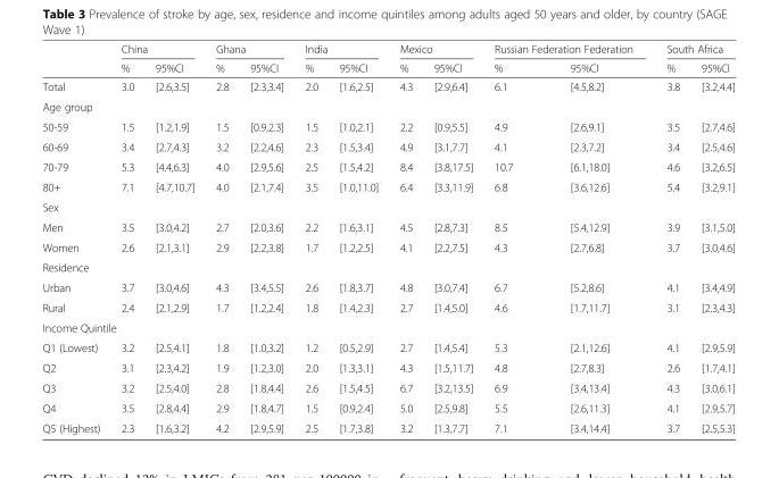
<table><thead><tr><td rowspan="2"></td><td colspan="2">China</td><td colspan="2">Ghana</td><td colspan="2">India</td><td colspan="2">Mexico</td><td colspan="2">Russian Federation Federation</td><td colspan="2">South Africa</td></tr><tr><td>%</td><td>95%CI</td><td>%</td><td>95%CI</td><td>%</td><td>95%CI</td><td>%</td><td>95%CI</td><td>%</td><td>95%CI</td><td>%</td><td>95%CI</td></tr></thead><tbody><tr><td>Total</td><td>3.0</td><td>[2.6,3.5]</td><td>2.8</td><td>[2.3,3.4]</td><td>2.0</td><td>[1.6,2.5]</td><td>4.3</td><td>[2.9,6.4]</td><td>6.1</td><td>[4.5,8.2]</td><td>3.8</td><td>[3.2,4.4]</td></tr><tr><td colspan="13">Age group</td></tr><tr><td>50-59</td><td>1.5</td><td>[1.2,1.9]</td><td>1.5</td><td>[0.9,2.3]</td><td>1.5</td><td>[1.0,2.1]</td><td>2.2</td><td>[0.9,5.5]</td><td>4.9</td><td>[2.6,9.1]</td><td>3.5</td><td>[2.7,4.6]</td></tr><tr><td>60-69</td><td>3.4</td><td>[2.7,4.3]</td><td>3.2</td><td>[2.2,4.6]</td><td>2.3</td><td>[1.5,3.4]</td><td>4.9</td><td>[3.1,7.7]</td><td>4.1</td><td>[2.3,7.2]</td><td>3.4</td><td>[2.5,4.6]</td></tr><tr><td>70-79</td><td>5.3</td><td>[4.4,6.3]</td><td>4.0</td><td>[2.9,5.6]</td><td>2.5</td><td>[1.5,4.2]</td><td>8.4</td><td>[3.8,17.5]</td><td>10.7</td><td>[6.1,18.0]</td><td>4.6</td><td>[3.2,6.5]</td></tr><tr><td>80+</td><td>7.1</td><td>[4.7,10.7]</td><td>4.0</td><td>[2.1,7.4]</td><td>3.5</td><td>[1.0,11.0]</td><td>6.4</td><td>[3.3,11.9]</td><td>6.8</td><td>[3.6,12.6]</td><td>5.4</td><td>[3.2,9.1]</td></tr><tr><td colspan="13">Sex</td></tr><tr><td>Men</td><td>3.5</td><td>[3.0,4.2]</td><td>2.7</td><td>[2.0,3.6]</td><td>2.2</td><td>[1.6,3.1]</td><td>4.5</td><td>[2.8,7.3]</td><td>8.5</td><td>[5.4,12.9]</td><td>3.9</td><td>[3.1,5.0]</td></tr><tr><td>Women</td><td>2.6</td><td>[2.1,3.1]</td><td>2.9</td><td>[2.2,3.8]</td><td>1.7</td><td>[1.2,2.5]</td><td>4.1</td><td>[2.2,7.5]</td><td>4.3</td><td>[2.7,6.8]</td><td>3.7</td><td>[3.0,4.6]</td></tr><tr><td colspan="13">Residence</td></tr><tr><td>Urban</td><td>3.7</td><td>[3.0,4.6]</td><td>4.3</td><td>[3.4,5.5]</td><td>2.6</td><td>[1.8,3.7]</td><td>4.8</td><td>[3.0,7.4]</td><td>6.7</td><td>[5.2,8.6]</td><td>4.1</td><td>[3.4,4.9]</td></tr><tr><td>Rural</td><td>2.4</td><td>[2.1,2.9]</td><td>1.7</td><td>[1.2,2.4]</td><td>1.8</td><td>[1.4,2.3]</td><td>2.7</td><td>[1.4,5.0]</td><td>4.6</td><td>[1.7,11.7]</td><td>3.1</td><td>[2.3,4.3]</td></tr><tr><td colspan="13">Income Quintile</td></tr><tr><td>Q1 (Lowest)</td><td>3.2</td><td>[2.5,4.1]</td><td>1.8</td><td>[1.0,3.2]</td><td>1.2</td><td>[0.5,2.9]</td><td>2.7</td><td>[1.4,5.4]</td><td>5.3</td><td>[2.1,12.6]</td><td>4.1</td><td>[2.9,5.9]</td></tr><tr><td>Q2</td><td>3.1</td><td>[2.3,4.2]</td><td>1.9</td><td>[1.2,3.0]</td><td>2.0</td><td>[1.3,3.1]</td><td>4.3</td><td>[1.5,11.7]</td><td>4.8</td><td>[2.7,8.3]</td><td>2.6</td><td>[1.7,4.1]</td></tr><tr><td>Q3</td><td>3.2</td><td>[2.5,4.0]</td><td>2.8</td><td>[1.8,4.4]</td><td>2.6</td><td>[1.5,4.5]</td><td>6.7</td><td>[3.2,13.5]</td><td>6.9</td><td>[3.4,13.4]</td><td>4.3</td><td>[3.0,6.1]</td></tr><tr><td>Q4</td><td>3.5</td><td>[2.8,4.4]</td><td>2.9</td><td>[1.8,4.7]</td><td>1.5</td><td>[0.9,2.4]</td><td>5.0</td><td>[2.5,9.8]</td><td>5.5</td><td>[2.6,11.3]</td><td>4.1</td><td>[2.9,5.7]</td></tr><tr><td>Q5 (Highest)</td><td>2.3</td><td>[1.6,3.2]</td><td>4.2</td><td>[2.9,5.9]</td><td>2.5</td><td>[1.7,3.8]</td><td>3.2</td><td>[1.3,7.7]</td><td>7.1</td><td>[3.4,14.4]</td><td>3.7</td><td>[2.5,5.3]</td></tr></tbody></table>